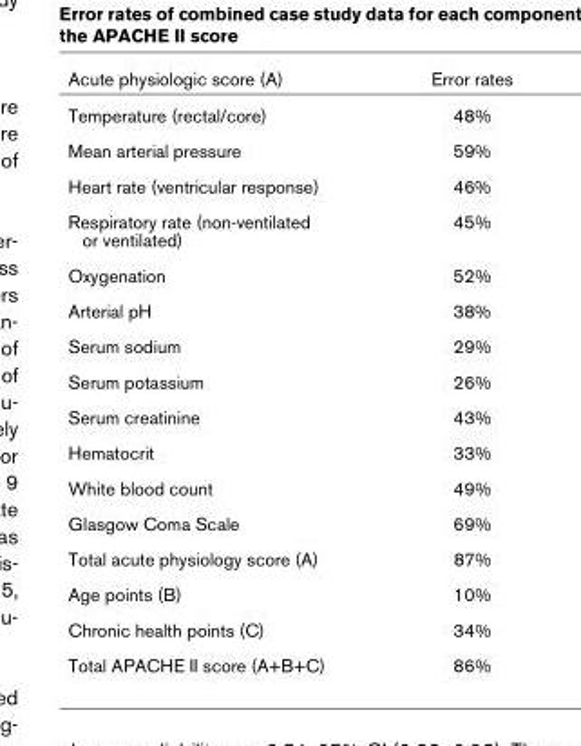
<table><thead><tr><td>Acute physiologic score (A)</td><td>Error rates</td></tr></thead><tbody><tr><td>Temperature (rectal/core)</td><td>48%</td></tr><tr><td>Mean arterial pressure</td><td>59%</td></tr><tr><td>Heart rate (ventricular response)</td><td>46%</td></tr><tr><td>Respiratory rate (non-ventilated or ventilated)</td><td>45%</td></tr><tr><td>Oxygenation</td><td>52%</td></tr><tr><td>Arterial pH</td><td>38%</td></tr><tr><td>Serum sodium</td><td>29%</td></tr><tr><td>Serum potassium</td><td>26%</td></tr><tr><td>Serum creatinine</td><td>43%</td></tr><tr><td>Hematocrit</td><td>33%</td></tr><tr><td>White blood count</td><td>49%</td></tr><tr><td>Glasgow Coma Scale</td><td>69%</td></tr><tr><td>Total acute physiology score (A)</td><td>87%</td></tr><tr><td>Age points (B)</td><td>10%</td></tr><tr><td>Chronic health points (C)</td><td>34%</td></tr><tr><td>Total APACHE II score (A+B+C)</td><td>86%</td></tr></tbody></table>